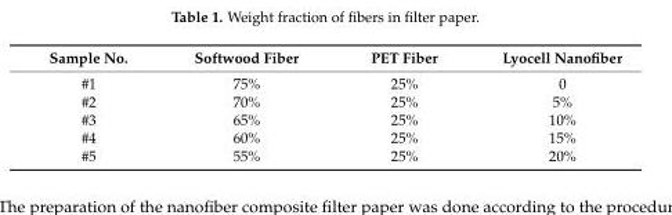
<table><thead><tr><td>Sample No.</td><td>Softwood Fiber</td><td>PET Fiber</td><td>Lyocell Nanofiber</td></tr></thead><tbody><tr><td>#1</td><td>75%</td><td>25%</td><td>0</td></tr><tr><td>#2</td><td>70%</td><td>25%</td><td>5%</td></tr><tr><td>#3</td><td>65%</td><td>25%</td><td>10%</td></tr><tr><td>#4</td><td>60%</td><td>25%</td><td>15%</td></tr><tr><td>#5</td><td>55%</td><td>25%</td><td>20%</td></tr></tbody></table>